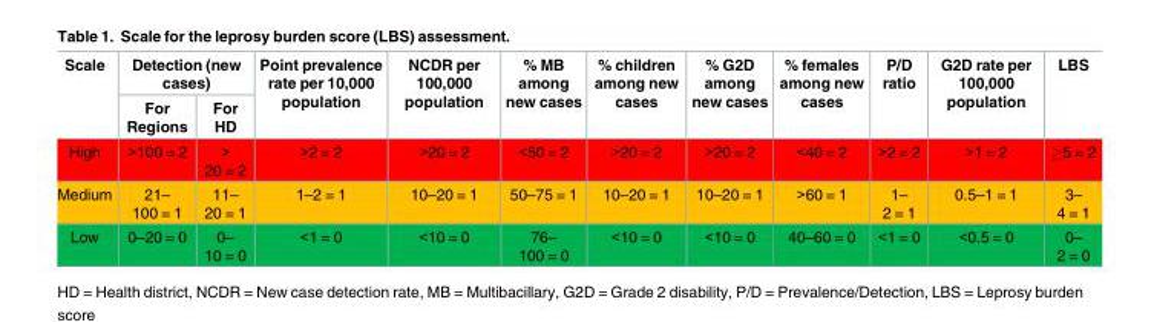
<table><thead><tr><td rowspan="2">Scale</td><td colspan="2">Detection (new cases)</td><td rowspan="2">Point prevalence rate per 10,000 population</td><td rowspan="2">NCDR per 100,000 population</td><td rowspan="2">% MB among new cases</td><td rowspan="2">% children among new cases</td><td rowspan="2">% G2D among new cases</td><td rowspan="2">% females among new cases</td><td rowspan="2">P/D ratio</td><td rowspan="2">G2D rate per 100,000 population</td><td rowspan="2">LBS</td></tr><tr><td>For Regions</td><td>For HD</td></tr></thead><tbody><tr><td>High</td><td>&gt;100 = 2</td><td>&gt; 20 = 2</td><td>&gt;2 = 2</td><td>&gt;20 = 2</td><td>&lt;50 = 2</td><td>&gt;20 = 2</td><td>&gt;20 = 2</td><td>&lt;40 = 2</td><td>&gt;2 = 2</td><td>&gt;1 = 2</td><td>≥5 = 2</td></tr><tr><td>Medium</td><td>21– 100 = 1</td><td>11– 20 = 1</td><td>1–2 = 1</td><td>10–20 = 1</td><td>50–75 = 1</td><td>10–20 = 1</td><td>10–20 = 1</td><td>&gt;60 = 1</td><td>1– 2 = 1</td><td>0.5–1 = 1</td><td>3– 4 = 1</td></tr><tr><td>Low</td><td>0–20 = 0</td><td>0– 10 = 0</td><td>&lt;1 = 0</td><td>&lt;10 = 0</td><td>76– 100 = 0</td><td>&lt;10 = 0</td><td>&lt;10 = 0</td><td>40–60 = 0</td><td>&lt;1 = 0</td><td>&lt;0.5 = 0</td><td>0– 2 = 0</td></tr></tbody></table>